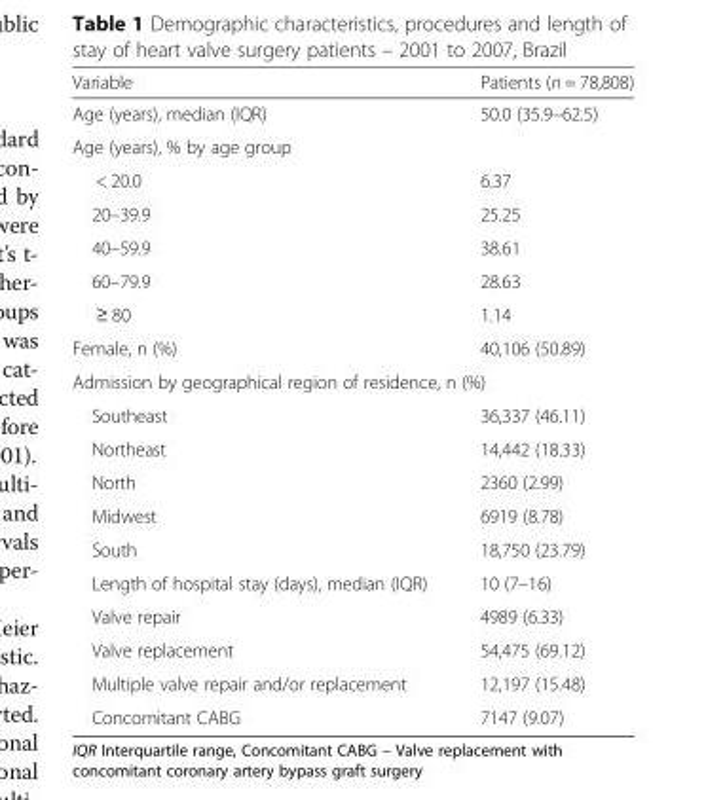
<table><thead><tr><td>Variable</td><td>Patients (n = 78,808)</td></tr></thead><tbody><tr><td>Age (years), median (IQR)</td><td>50.0 (35.9–62.5)</td></tr><tr><td colspan="2">Age (years), % by age group</td></tr><tr><td>&lt; 20.0</td><td>6.37</td></tr><tr><td>20–39.9</td><td>25.25</td></tr><tr><td>40–59.9</td><td>38.61</td></tr><tr><td>60–79.9</td><td>28.63</td></tr><tr><td>≥ 80</td><td>1.14</td></tr><tr><td>Female, n (%)</td><td>40,106 (50.89)</td></tr><tr><td colspan="2">Admission by geographical region of residence, n (%)</td></tr><tr><td>Southeast</td><td>36,337 (46.11)</td></tr><tr><td>Northeast</td><td>14,442 (18.33)</td></tr><tr><td>North</td><td>2360 (2.99)</td></tr><tr><td>Midwest</td><td>6919 (8.78)</td></tr><tr><td>South</td><td>18,750 (23.79)</td></tr><tr><td>Length of hospital stay (days), median (IQR)</td><td>10 (7–16)</td></tr><tr><td>Valve repair</td><td>4989 (6.33)</td></tr><tr><td>Valve replacement</td><td>54,475 (69.12)</td></tr><tr><td>Multiple valve repair and/or replacement</td><td>12,197 (15.48)</td></tr><tr><td>Concomitant CABG</td><td>7147 (9.07)</td></tr></tbody></table>